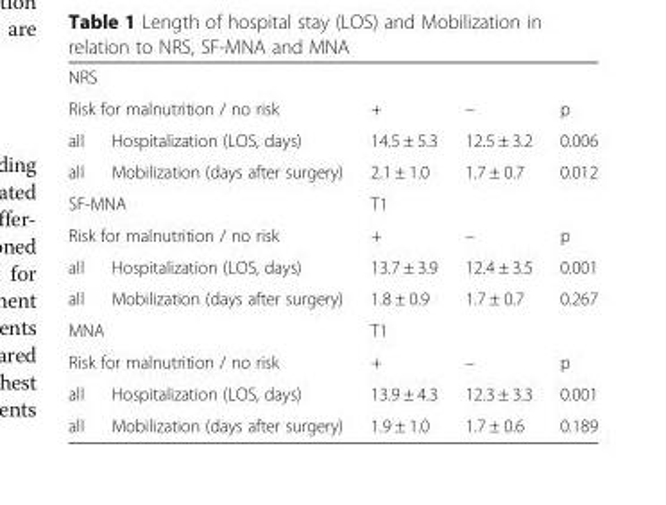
<table><tbody><tr><td colspan="5">NRS</td></tr><tr><td colspan="2">Risk for malnutrition / no risk</td><td>+</td><td>–</td><td>p</td></tr><tr><td>all</td><td>Hospitalization (LOS, days)</td><td>14.5 ± 5.3</td><td>12.5 ± 3.2</td><td>0.006</td></tr><tr><td>all</td><td>Mobilization (days after surgery)</td><td>2.1 ± 1.0</td><td>1.7 ± 0.7</td><td>0.012</td></tr><tr><td colspan="2">SF-MNA</td><td colspan="3">T1</td></tr><tr><td colspan="2">Risk for malnutrition / no risk</td><td>+</td><td>–</td><td>p</td></tr><tr><td>all</td><td>Hospitalization (LOS, days)</td><td>13.7 ± 3.9</td><td>12.4 ± 3.5</td><td>0.001</td></tr><tr><td>all</td><td>Mobilization (days after surgery)</td><td>1.8 ± 0.9</td><td>1.7 ± 0.7</td><td>0.267</td></tr><tr><td colspan="2">MNA</td><td colspan="3">T1</td></tr><tr><td colspan="2">Risk for malnutrition / no risk</td><td>+</td><td>–</td><td>p</td></tr><tr><td>all</td><td>Hospitalization (LOS, days)</td><td>13.9 ± 4.3</td><td>12.3 ± 3.3</td><td>0.001</td></tr><tr><td>all</td><td>Mobilization (days after surgery)</td><td>1.9 ± 1.0</td><td>1.7 ± 0.6</td><td>0.189</td></tr></tbody></table>